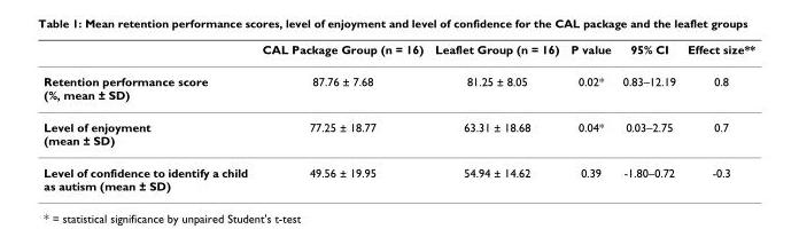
<table><thead><tr><td></td><td>CAL Package Group (n = 16)</td><td>Leaflet Group (n = 16)</td><td>P value</td><td>95% CI</td><td>Effect size**</td></tr></thead><tbody><tr><td>Retention performance score (%, mean ± SD)</td><td>87.76 ± 7.68</td><td>81.25 ± 8.05</td><td>0.02*</td><td>0.83–12.19</td><td>0.8</td></tr><tr><td>Level of enjoyment (mean ± SD)</td><td>77.25 ± 18.77</td><td>63.31 ± 18.68</td><td>0.04*</td><td>0.03–2.75</td><td>0.7</td></tr><tr><td>Level of confidence to identify a child as autism (mean ± SD)</td><td>49.56 ± 19.95</td><td>54.94 ± 14.62</td><td>0.39</td><td>-1.80–0.72</td><td>-0.3</td></tr></tbody></table>